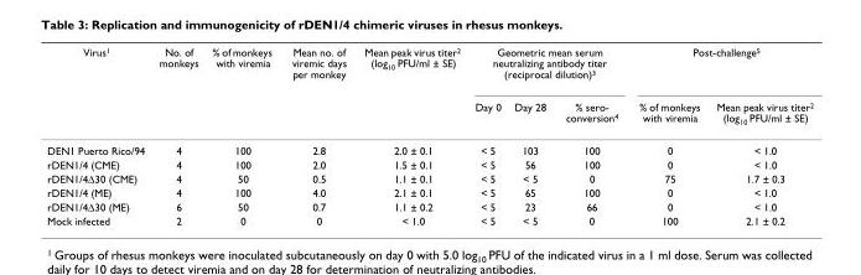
<table><thead><tr><td rowspan="2">Virus<sup>1</sup></td><td rowspan="2">No. of monkeys</td><td rowspan="2">% of monkeys with viremia</td><td rowspan="2">Mean no. of viremic days per monkey</td><td rowspan="2">Mean peak virus titer<sup>2</sup> (log<sub>10</sub> PFU/ml ± SE)</td><td colspan="3">Geometric mean serum neutralizing antibody titer (reciprocal dilution)<sup>3</sup></td><td colspan="2">Post-challenge<sup>5</sup></td></tr><tr><td>Day 0</td><td>Day 28</td><td>% sero- conversion<sup>4</sup></td><td>% of monkeys with viremia</td><td>Mean peak virus titer<sup>2</sup> (log<sub>10</sub> PFU/ml ± SE)</td></tr></thead><tbody><tr><td>DEN1 Puerto Rico/94</td><td>4</td><td>100</td><td>2.8</td><td>2.0 ± 0.1</td><td>&lt; 5</td><td>103</td><td>100</td><td>0</td><td>&lt; 1.0</td></tr><tr><td>rDEN1/4 (CME)</td><td>4</td><td>100</td><td>2.0</td><td>1.5 ± 0.1</td><td>&lt; 5</td><td>56</td><td>100</td><td>0</td><td>&lt; 1.0</td></tr><tr><td>rDEN1/4Δ30 (CME)</td><td>4</td><td>50</td><td>0.5</td><td>1.1 ± 0.1</td><td>&lt; 5</td><td>&lt; 5</td><td>0</td><td>75</td><td>1.7 ± 0.3</td></tr><tr><td>rDEN1/4 (ME)</td><td>4</td><td>100</td><td>4.0</td><td>2.1 ± 0.1</td><td>&lt; 5</td><td>65</td><td>100</td><td>0</td><td>&lt; 1.0</td></tr><tr><td>rDEN1/4Δ30 (ME)</td><td>6</td><td>50</td><td>0.7</td><td>1.1 ± 0.2</td><td>&lt; 5</td><td>23</td><td>66</td><td>0</td><td>&lt; 1.0</td></tr><tr><td>Mock infected</td><td>2</td><td>0</td><td>0</td><td>&lt; 1.0</td><td>&lt; 5</td><td>&lt; 5</td><td>0</td><td>100</td><td>2.1 ± 0.2</td></tr></tbody></table>